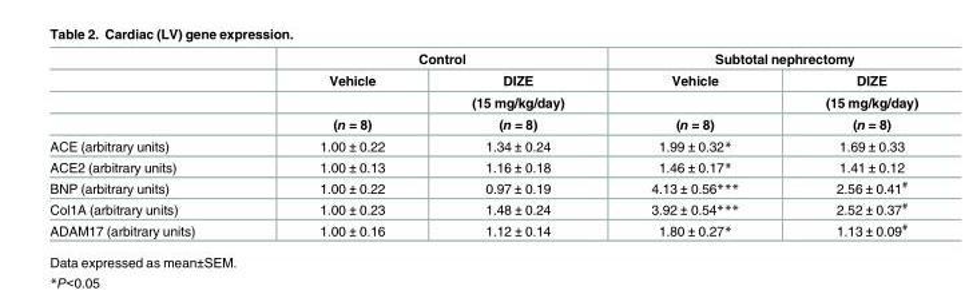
<table><thead><tr><td rowspan="4"></td><td colspan="2">Control</td><td colspan="2">Subtotal nephrectomy</td></tr><tr><td rowspan="3">Vehicle (n = 8)</td><td rowspan="3">DIZE (15 mg/kg/day) (n = 8)</td><td rowspan="3">Vehicle (n = 8)</td><td rowspan="3">DIZE (15 mg/kg/day) (n = 8)</td></tr><tr></tr><tr></tr></thead><tbody><tr><td>ACE (arbitrary units)</td><td>1.00 ± 0.22</td><td>1.34 ± 0.24</td><td>1.99 ± 0.32*</td><td>1.69 ± 0.33</td></tr><tr><td>ACE2 (arbitrary units)</td><td>1.00 ± 0.13</td><td>1.16 ± 0.18</td><td>1.46 ± 0.17*</td><td>1.41 ± 0.12</td></tr><tr><td>BNP (arbitrary units)</td><td>1.00 ± 0.22</td><td>0.97 ± 0.19</td><td>4.13 ± 0.56***</td><td>2.56 ± 0.41<sup>#</sup></td></tr><tr><td>Col1A (arbitrary units)</td><td>1.00 ± 0.23</td><td>1.48 ± 0.24</td><td>3.92 ± 0.54***</td><td>2.52 ± 0.37<sup>#</sup></td></tr><tr><td>ADAM17 (arbitrary units)</td><td>1.00 ± 0.16</td><td>1.12 ± 0.14</td><td>1.80 ± 0.27*</td><td>1.13 ± 0.09<sup>#</sup></td></tr></tbody></table>